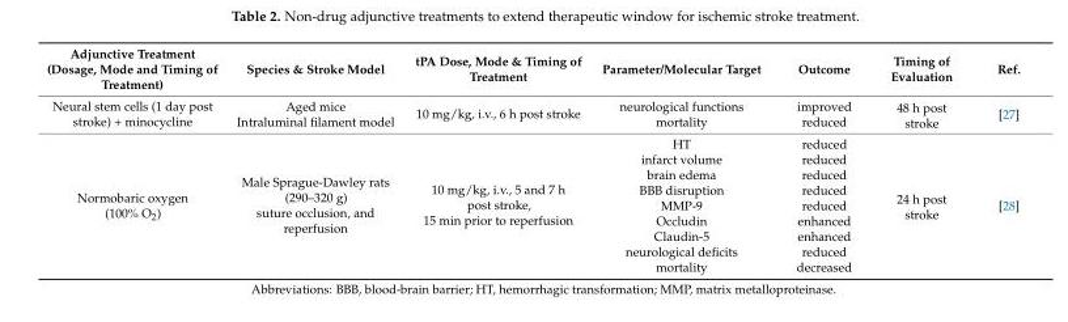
<table><thead><tr><td>Adjunctive Treatment (Dosage, Mode and Timing of Treatment)</td><td>Species &amp; Stroke Model</td><td>tPA Dose, Mode &amp; Timing of Treatment</td><td>Parameter/Molecular Target</td><td>Outcome</td><td>Timing of Evaluation</td><td>Ref.</td></tr></thead><tbody><tr><td rowspan="2">Neural stem cells (1 day post stroke) + minocycline</td><td>Aged mice</td><td rowspan="2">10 mg/kg, i.v., 6 h post stroke</td><td>neurological functions</td><td>improved</td><td rowspan="2">48 h post stroke</td><td rowspan="2">[27]</td></tr><tr><td>Intraluminal filament model</td><td>mortality</td><td>reduced</td></tr><tr><td rowspan="9">Normobaric oxygen (100% O<sub>2</sub>)</td><td rowspan="9">Male Sprague-Dawley rats (290–320 g) suture occlusion, and reperfusion</td><td rowspan="9">10 mg/kg, i.v., 5 and 7 h post stroke, 15 min prior to reperfusion</td><td>HT</td><td>reduced</td><td rowspan="9">24 h post stroke</td><td rowspan="9">[28]</td></tr><tr><td>infarct volume</td><td>reduced</td></tr><tr><td>brain edema</td><td>reduced</td></tr><tr><td>BBB disruption</td><td>reduced</td></tr><tr><td>MMP-9</td><td>reduced</td></tr><tr><td>Occludin</td><td>enhanced</td></tr><tr><td>Claudin-5</td><td>enhanced</td></tr><tr><td>neurological deficits</td><td>reduced</td></tr><tr><td>mortality</td><td>decreased</td></tr></tbody></table>